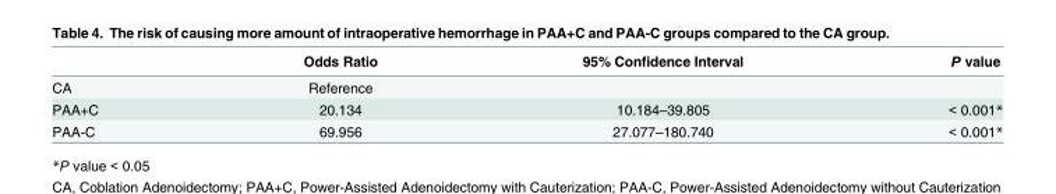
<table><thead><tr><td></td><td>Odds Ratio</td><td>95% Confidence Interval</td><td>P value</td></tr></thead><tbody><tr><td>CA</td><td>Reference</td><td colspan="2"></td></tr><tr><td>PAA+C</td><td>20.134</td><td>10.184–39.805</td><td>&lt; 0.001*</td></tr><tr><td>PAA-C</td><td>69.956</td><td>27.077–180.740</td><td>&lt; 0.001*</td></tr></tbody></table>